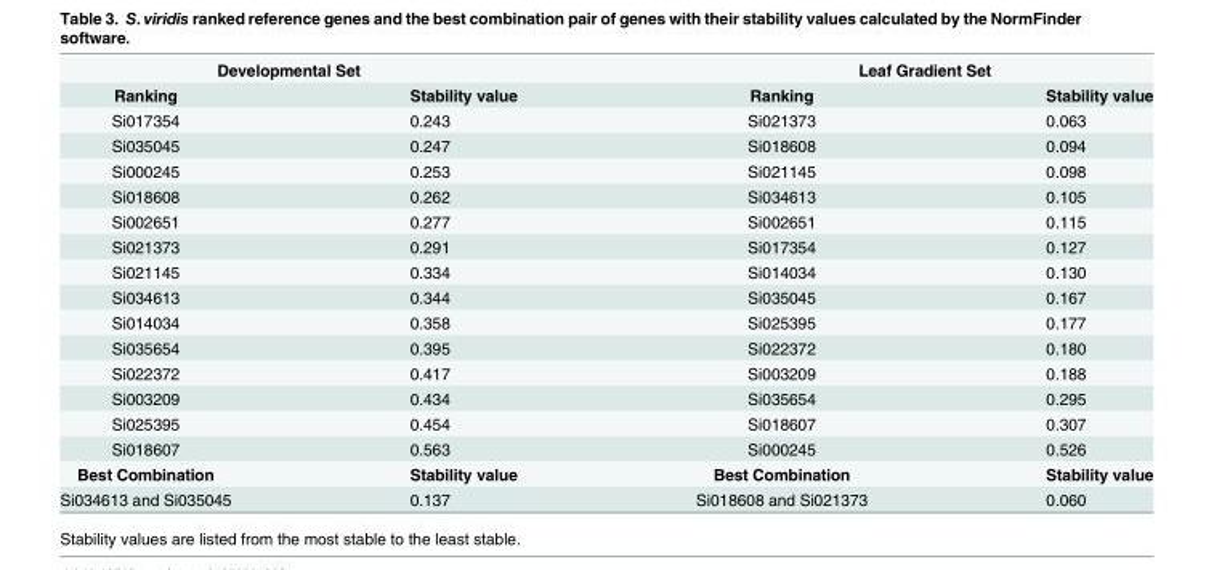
<table><tbody><tr><td colspan="2">Developmental Set</td><td colspan="2">Leaf Gradient Set</td></tr><tr><td>Ranking</td><td>Stability value</td><td>Ranking</td><td>Stability value</td></tr><tr><td>Si017354</td><td>0.243</td><td>Si021373</td><td>0.063</td></tr><tr><td>Si035045</td><td>0.247</td><td>Si018608</td><td>0.094</td></tr><tr><td>Si000245</td><td>0.253</td><td>Si021145</td><td>0.098</td></tr><tr><td>Si018608</td><td>0.262</td><td>Si034613</td><td>0.105</td></tr><tr><td>Si002651</td><td>0.277</td><td>Si002651</td><td>0.115</td></tr><tr><td>Si021373</td><td>0.291</td><td>Si017354</td><td>0.127</td></tr><tr><td>Si021145</td><td>0.334</td><td>Si014034</td><td>0.130</td></tr><tr><td>Si034613</td><td>0.344</td><td>Si035045</td><td>0.167</td></tr><tr><td>Si014034</td><td>0.358</td><td>Si025395</td><td>0.177</td></tr><tr><td>Si035654</td><td>0.395</td><td>Si022372</td><td>0.180</td></tr><tr><td>Si022372</td><td>0.417</td><td>Si003209</td><td>0.188</td></tr><tr><td>Si003209</td><td>0.434</td><td>Si035654</td><td>0.295</td></tr><tr><td>Si025395</td><td>0.454</td><td>Si018607</td><td>0.307</td></tr><tr><td>Si018607</td><td>0.563</td><td>Si000245</td><td>0.526</td></tr><tr><td>Best Combination</td><td>Stability value</td><td>Best Combination</td><td>Stability value</td></tr><tr><td>Si034613 and Si035045</td><td>0.137</td><td>Si018608 and Si021373</td><td>0.060</td></tr></tbody></table>